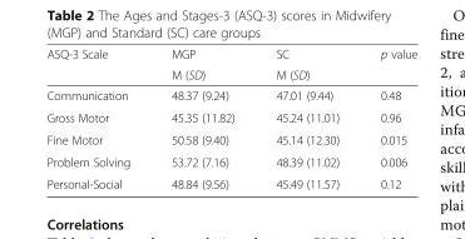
<table><thead><tr><td rowspan="2">ASQ-3 Scale</td><td rowspan="2">MGP M (SD)</td><td rowspan="2">SC M (SD)</td><td rowspan="2">p value</td></tr><tr></tr></thead><tbody><tr><td>Communication</td><td>48.37 (9.24)</td><td>47.01 (9.44)</td><td>0.48</td></tr><tr><td>Gross Motor</td><td>45.35 (11.82)</td><td>45.24 (11.01)</td><td>0.96</td></tr><tr><td>Fine Motor</td><td>50.58 (9.40)</td><td>45.14 (12.30)</td><td>0.015</td></tr><tr><td>Problem Solving</td><td>53.72 (7.16)</td><td>48.39 (11.02)</td><td>0.006</td></tr><tr><td>Personal-Social</td><td>48.84 (9.56)</td><td>45.49 (11.57)</td><td>0.12</td></tr></tbody></table>